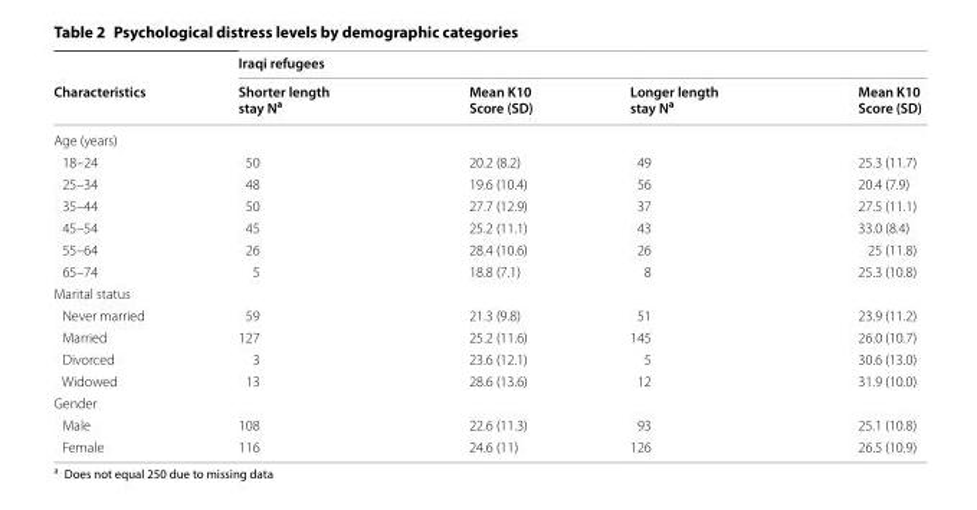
<table><thead><tr><td rowspan="2">Characteristics</td><td colspan="4">Iraqi refugees</td></tr><tr><td>Shorter length stay N<sup>a</sup></td><td>Mean K10 Score (SD)</td><td>Longer length stay N<sup>a</sup></td><td>Mean K10 Score (SD)</td></tr></thead><tbody><tr><td colspan="5">Age (years)</td></tr><tr><td>18–24</td><td>50</td><td>20.2 (8.2)</td><td>49</td><td>25.3 (11.7)</td></tr><tr><td>25–34</td><td>48</td><td>19.6 (10.4)</td><td>56</td><td>20.4 (7.9)</td></tr><tr><td>35–44</td><td>50</td><td>27.7 (12.9)</td><td>37</td><td>27.5 (11.1)</td></tr><tr><td>45–54</td><td>45</td><td>25.2 (11.1)</td><td>43</td><td>33.0 (8.4)</td></tr><tr><td>55–64</td><td>26</td><td>28.4 (10.6)</td><td>26</td><td>25 (11.8)</td></tr><tr><td>65–74</td><td>5</td><td>18.8 (7.1)</td><td>8</td><td>25.3 (10.8)</td></tr><tr><td colspan="5">Marital status</td></tr><tr><td>Never married</td><td>59</td><td>21.3 (9.8)</td><td>51</td><td>23.9 (11.2)</td></tr><tr><td>Married</td><td>127</td><td>25.2 (11.6)</td><td>145</td><td>26.0 (10.7)</td></tr><tr><td>Divorced</td><td>3</td><td>23.6 (12.1)</td><td>5</td><td>30.6 (13.0)</td></tr><tr><td>Widowed</td><td>13</td><td>28.6 (13.6)</td><td>12</td><td>31.9 (10.0)</td></tr><tr><td colspan="5">Gender</td></tr><tr><td>Male</td><td>108</td><td>22.6 (11.3)</td><td>93</td><td>25.1 (10.8)</td></tr><tr><td>Female</td><td>116</td><td>24.6 (11)</td><td>126</td><td>26.5 (10.9)</td></tr></tbody></table>